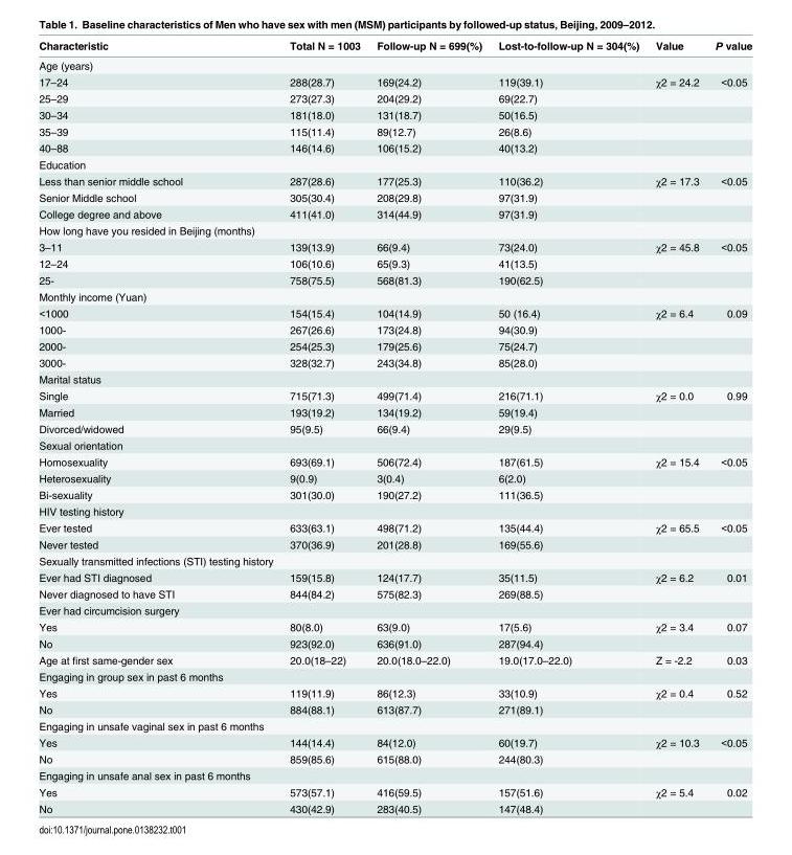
<table><thead><tr><td>Characteristic</td><td>Total N = 1003</td><td>Follow-up N = 699(%)</td><td>Lost-to-follow-up N = 304(%)</td><td>Value</td><td>P value</td></tr></thead><tbody><tr><td colspan="6">Age (years)</td></tr><tr><td>17–24</td><td>288(28.7)</td><td>169(24.2)</td><td>119(39.1)</td><td>χ2 = 24.2</td><td>&lt;0.05</td></tr><tr><td>25–29</td><td>273(27.3)</td><td>204(29.2)</td><td>69(22.7)</td><td></td><td></td></tr><tr><td>30–34</td><td>181(18.0)</td><td>131(18.7)</td><td>50(16.5)</td><td></td><td></td></tr><tr><td>35–39</td><td>115(11.4)</td><td>89(12.7)</td><td>26(8.6)</td><td></td><td></td></tr><tr><td>40–88</td><td>146(14.6)</td><td>106(15.2)</td><td>40(13.2)</td><td></td><td></td></tr><tr><td colspan="6">Education</td></tr><tr><td>Less than senior middle school</td><td>287(28.6)</td><td>177(25.3)</td><td>110(36.2)</td><td>χ2 = 17.3</td><td>&lt;0.05</td></tr><tr><td>Senior Middle school</td><td>305(30.4)</td><td>208(29.8)</td><td>97(31.9)</td><td></td><td></td></tr><tr><td>College degree and above</td><td>411(41.0)</td><td>314(44.9)</td><td>97(31.9)</td><td></td><td></td></tr><tr><td colspan="6">How long have you resided in Beijing (months)</td></tr><tr><td>3–11</td><td>139(13.9)</td><td>66(9.4)</td><td>73(24.0)</td><td>χ2 = 45.8</td><td>&lt;0.05</td></tr><tr><td>12–24</td><td>106(10.6)</td><td>65(9.3)</td><td>41(13.5)</td><td></td><td></td></tr><tr><td>25-</td><td>758(75.5)</td><td>568(81.3)</td><td>190(62.5)</td><td></td><td></td></tr><tr><td colspan="6">Monthly income (Yuan)</td></tr><tr><td>&lt;1000</td><td>154(15.4)</td><td>104(14.9)</td><td>50 (16.4)</td><td>χ2 = 6.4</td><td>0.09</td></tr><tr><td>1000-</td><td>267(26.6)</td><td>173(24.8)</td><td>94(30.9)</td><td></td><td></td></tr><tr><td>2000-</td><td>254(25.3)</td><td>179(25.6)</td><td>75(24.7)</td><td></td><td></td></tr><tr><td>3000-</td><td>328(32.7)</td><td>243(34.8)</td><td>85(28.0)</td><td></td><td></td></tr><tr><td colspan="6">Marital status</td></tr><tr><td>Single</td><td>715(71.3)</td><td>499(71.4)</td><td>216(71.1)</td><td>χ2 = 0.0</td><td>0.99</td></tr><tr><td>Married</td><td>193(19.2)</td><td>134(19.2)</td><td>59(19.4)</td><td></td><td></td></tr><tr><td>Divorced/widowed</td><td>95(9.5)</td><td>66(9.4)</td><td>29(9.5)</td><td></td><td></td></tr><tr><td colspan="6">Sexual orientation</td></tr><tr><td>Homosexuality</td><td>693(69.1)</td><td>506(72.4)</td><td>187(61.5)</td><td>χ2 = 15.4</td><td>&lt;0.05</td></tr><tr><td>Heterosexuality</td><td>9(0.9)</td><td>3(0.4)</td><td>6(2.0)</td><td></td><td></td></tr><tr><td>Bi-sexuality</td><td>301(30.0)</td><td>190(27.2)</td><td>111(36.5)</td><td></td><td></td></tr><tr><td colspan="6">HIV testing history</td></tr><tr><td>Ever tested</td><td>633(63.1)</td><td>498(71.2)</td><td>135(44.4)</td><td>χ2 = 65.5</td><td>&lt;0.05</td></tr><tr><td>Never tested</td><td>370(36.9)</td><td>201(28.8)</td><td>169(55.6)</td><td></td><td></td></tr><tr><td colspan="6">Sexually transmitted infections (STI) testing history</td></tr><tr><td>Ever had STI diagnosed</td><td>159(15.8)</td><td>124(17.7)</td><td>35(11.5)</td><td>χ2 = 6.2</td><td>0.01</td></tr><tr><td>Never diagnosed to have STI</td><td>844(84.2)</td><td>575(82.3)</td><td>269(88.5)</td><td></td><td></td></tr><tr><td colspan="6">Ever had circumcision surgery</td></tr><tr><td>Yes</td><td>80(8.0)</td><td>63(9.0)</td><td>17(5.6)</td><td>χ2 = 3.4</td><td>0.07</td></tr><tr><td>No</td><td>923(92.0)</td><td>636(91.0)</td><td>287(94.4)</td><td></td><td></td></tr><tr><td>Age at first same-gender sex</td><td>20.0(18–22)</td><td>20.0(18.0–22.0)</td><td>19.0(17.0–22.0)</td><td>Z = -2.2</td><td>0.03</td></tr><tr><td colspan="6">Engaging in group sex in past 6 months</td></tr><tr><td>Yes</td><td>119(11.9)</td><td>86(12.3)</td><td>33(10.9)</td><td>χ2 = 0.4</td><td>0.52</td></tr><tr><td>No</td><td>884(88.1)</td><td>613(87.7)</td><td>271(89.1)</td><td></td><td></td></tr><tr><td colspan="6">Engaging in unsafe vaginal sex in past 6 months</td></tr><tr><td>Yes</td><td>144(14.4)</td><td>84(12.0)</td><td>60(19.7)</td><td>χ2 = 10.3</td><td>&lt;0.05</td></tr><tr><td>No</td><td>859(85.6)</td><td>615(88.0)</td><td>244(80.3)</td><td></td><td></td></tr><tr><td colspan="6">Engaging in unsafe anal sex in past 6 months</td></tr><tr><td>Yes</td><td>573(57.1)</td><td>416(59.5)</td><td>157(51.6)</td><td>χ2 = 5.4</td><td>0.02</td></tr><tr><td>No</td><td>430(42.9)</td><td>283(40.5)</td><td>147(48.4)</td><td></td><td></td></tr></tbody></table>